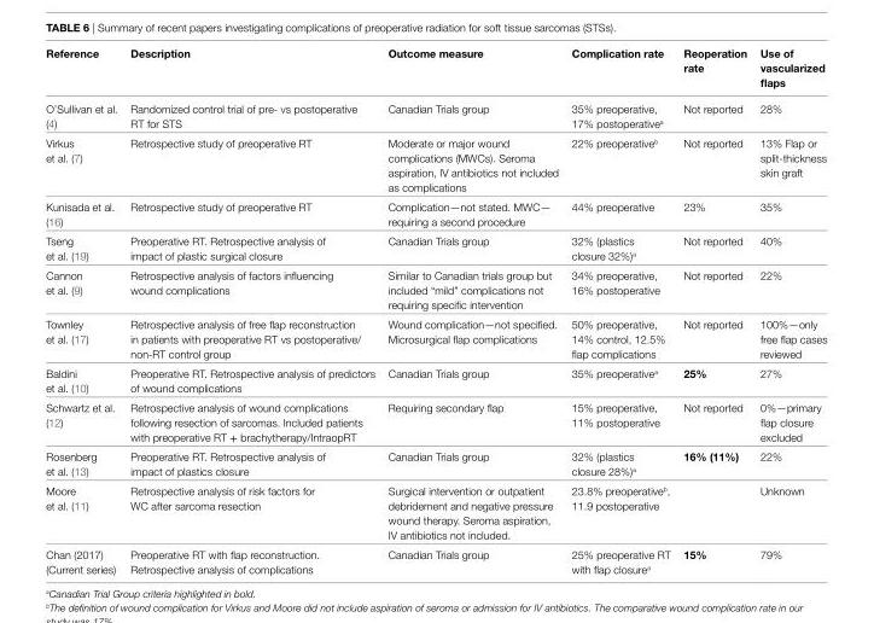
<table><thead><tr><td>reference</td><td>Description</td><td>Outcome measure</td><td>complication rate</td><td>reoperation rate</td><td>Use of vascularized flaps</td></tr></thead><tbody><tr><td>O’Sullivan et al. (4)</td><td>Randomized control trial of pre- vs postoperative RT for STS</td><td>Canadian Trials group</td><td>35% preoperative, 17% postoperative<sup>a</sup></td><td>Not reported</td><td>28%</td></tr><tr><td>Virkus et al. (7)</td><td>Retrospective study of preoperative RT</td><td>Moderate or major wound complications (MWCs). Seroma aspiration, IV antibiotics not included as complications</td><td>22% preoperative<sup>b</sup></td><td>Not reported</td><td>13% Flap or split-thickness skin graft</td></tr><tr><td>Kunisada et al. (16)</td><td>Retrospective study of preoperative RT</td><td>Complication—not stated. MWC— requiring a second procedure</td><td>44% preoperative</td><td>23%</td><td>35%</td></tr><tr><td>Tseng et al. (19)</td><td>Preoperative RT. Retrospective analysis of impact of plastic surgical closure</td><td>Canadian Trials group</td><td>32% (plastics closure 32%)<sup>a</sup></td><td>Not reported</td><td>40%</td></tr><tr><td>Cannon et al. (9)</td><td>Retrospective analysis of factors influencing wound complications</td><td>Similar to Canadian trials group but included “mild” complications not requiring specific intervention</td><td>34% preoperative, 16% postoperative</td><td>Not reported</td><td>22%</td></tr><tr><td>Townley et al. (17)</td><td>Retrospective analysis of free flap reconstruction in patients with preoperative RT vs postoperative/ non-RT control group</td><td>Wound complication—not specified. Microsurgical flap complications</td><td>50% preoperative, 14% control, 12.5% flap complications</td><td>Not reported</td><td>100%—only free flap cases reviewed</td></tr><tr><td>Baldini et al. (10)</td><td>Preoperative RT. Retrospective analysis of predictors of wound complications</td><td>Canadian Trials group</td><td>35% preoperative<sup>a</sup></td><td>25%</td><td>27%</td></tr><tr><td>Schwartz et al. (12)</td><td>Retrospective analysis of wound complications following resection of sarcomas. Included patients with preoperative RT + brachytherapy/IntraopRT</td><td>Requiring secondary flap</td><td>15% preoperative, 11% postoperative</td><td>Not reported</td><td>0%—primary flap closure excluded</td></tr><tr><td>Rosenberg et al. (13)</td><td>Preoperative RT. Retrospective analysis of impact of plastics closure</td><td>Canadian Trials group</td><td>32% (plastics closure 28%)<sup>a</sup></td><td>16% (11%)</td><td>22%</td></tr><tr><td>Moore et al. (11)</td><td>Retrospective analysis of risk factors for WC after sarcoma resection</td><td>Surgical intervention or outpatient debridement and negative pressure wound therapy. Seroma aspiration, IV antibiotics not included.</td><td>23.8% preoperative<sup>b</sup>, 11.9 postoperative</td><td></td><td>Unknown</td></tr><tr><td>Chan (2017) (Current series)</td><td>Preoperative RT with flap reconstruction. Retrospective analysis of complications</td><td>Canadian Trials group</td><td>25% preoperative RT with flap closure<sup>a</sup></td><td>15%</td><td>79%</td></tr></tbody></table>